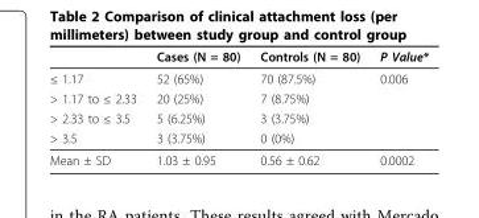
<table><thead><tr><td></td><td>Cases (N = 80)</td><td>Controls (N = 80)</td><td>P Value*</td></tr></thead><tbody><tr><td>≤ 1.17</td><td>52 (65%)</td><td>70 (87.5%)</td><td>0.006</td></tr><tr><td>&gt; 1.17 to ≤ 2.33</td><td>20 (25%)</td><td>7 (8.75%)</td><td></td></tr><tr><td>&gt; 2.33 to ≤ 3.5</td><td>5 (6.25%)</td><td>3 (3.75%)</td><td></td></tr><tr><td>&gt; 3.5</td><td>3 (3.75%)</td><td>0 (0%)</td><td></td></tr><tr><td>Mean ± SD</td><td>1.03 ± 0.95</td><td>0.56 ± 0.62</td><td>0.0002</td></tr></tbody></table>